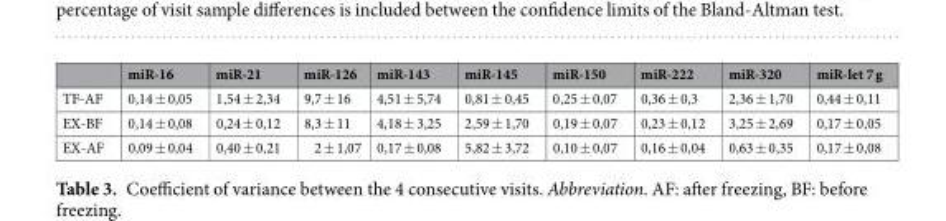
<table><thead><tr><td></td><td>miR-16</td><td>miR-21</td><td>miR-126</td><td>miR-143</td><td>miR-145</td><td>miR-150</td><td>miR-222</td><td>miR-320</td><td>miR-let 7 g</td></tr></thead><tbody><tr><td>TF-AF</td><td>0,14 ± 0,05</td><td>1,54 ± 2,34</td><td>9,7 ± 16</td><td>4,51 ± 5,74</td><td>0,81 ± 0,45</td><td>0,25 ± 0,07</td><td>0,36 ± 0,3</td><td>2,36 ± 1,70</td><td>0,44 ± 0,11</td></tr><tr><td>EX-BF</td><td>0,14 ± 0,08</td><td>0,24 ± 0,12</td><td>8,3 ± 11</td><td>4,18 ± 3,25</td><td>2,59 ± 1,70</td><td>0,19 ± 0,07</td><td>0,23 ± 0,12</td><td>3,25 ± 2,69</td><td>0,17 ± 0,05</td></tr><tr><td>EX-AF</td><td>0,09 ± 0,04</td><td>0,40 ± 0,21</td><td>2 ± 1,07</td><td>0,17 ± 0,08</td><td>5,82 ± 3,72</td><td>0,10 ± 0,07</td><td>0,16 ± 0,04</td><td>0,63 ± 0,35</td><td>0,17 ± 0,08</td></tr></tbody></table>